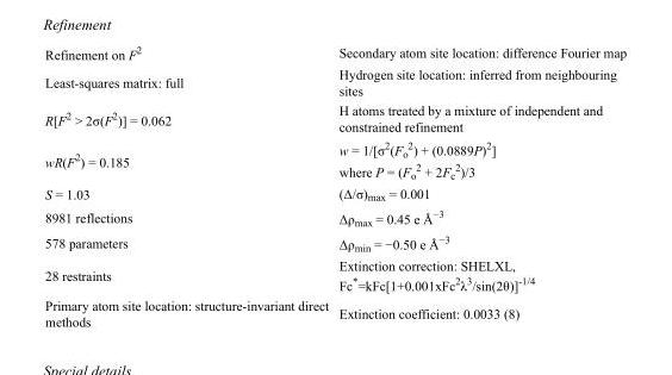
<table><tbody><tr><td>Refinement on F<sup>2</sup></td><td>Secondary atom site location: difference Fourier map</td></tr><tr><td>Least-squares matrix: full</td><td>Hydrogen site location: inferred from neighbouring sites</td></tr><tr><td>R[F<sup>2</sup> &gt; 2σ(F<sup>2</sup>)] = 0.062</td><td>H atoms treated by a mixture of independent and constrained refinement</td></tr><tr><td>wR(F<sup>2</sup>) = 0.185</td><td>w = 1/[σ<sup>2</sup>(F<sub>o</sub> <sup>2</sup>) + (0.0889P)<sup>2</sup>] where P = (F<sub>o</sub> <sup>2</sup> + 2F<sub>c</sub> <sup>2</sup>)/3</td></tr><tr><td>S = 1.03</td><td>(Δ/σ)<sub>max</sub> = 0.001</td></tr><tr><td>8981 reflections</td><td>Δρ<sub>max</sub> = 0.45 e Å<sup>−3</sup></td></tr><tr><td>578 parameters</td><td>Δρ<sub>min</sub> = −0.50 e Å<sup>−3</sup></td></tr><tr><td>28 restraints</td><td>Extinction correction: SHELXL, Fc*=kFc[1+0.001xFc<sup>2</sup>λ<sup>3</sup>/sin(2θ)]<sup>-1/4</sup></td></tr><tr><td>Primary atom site location: structure-invariant direct methods</td><td>Extinction coefficient: 0.0033 (8)</td></tr></tbody></table>